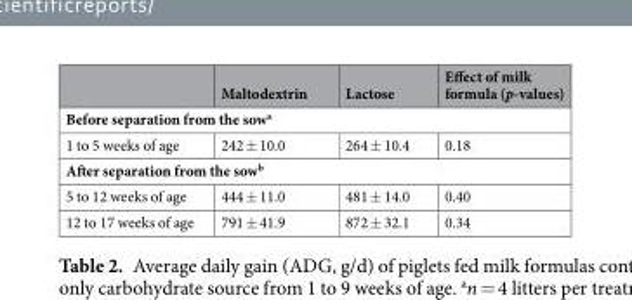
<table><thead><tr><td></td><td>Maltodextrin</td><td>Lactose</td><td>Effect of milk formula (p-values)</td></tr></thead><tbody><tr><td colspan="4">Before separation from the sow<sup>a</sup></td></tr><tr><td>1 to 5 weeks of age</td><td>242 ± 10.0</td><td>264 ± 10.4</td><td>0.18</td></tr><tr><td colspan="4">After separation from the sow<sup>b</sup></td></tr><tr><td>5 to 12 weeks of age</td><td>444 ± 11.0</td><td>481 ± 14.0</td><td>0.40</td></tr><tr><td>12 to 17 weeks of age</td><td>791 ± 41.9</td><td>872 ± 32.1</td><td>0.34</td></tr></tbody></table>